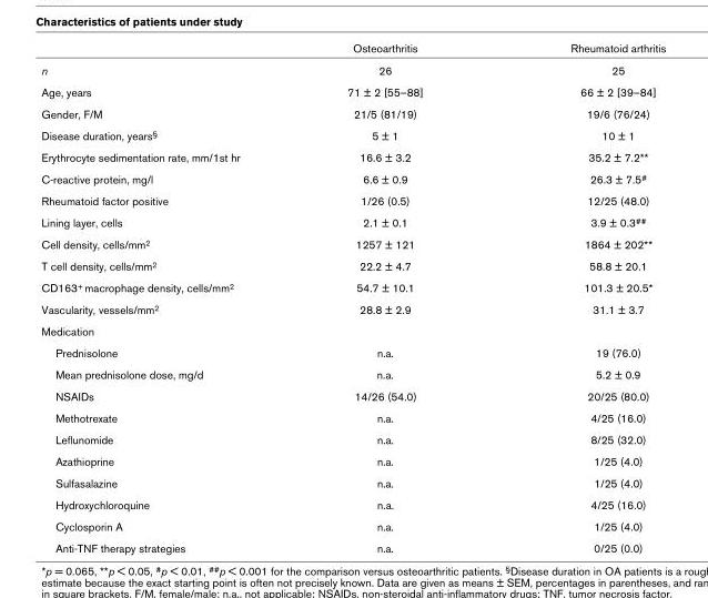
<table><thead><tr><td></td><td>Osteoarthritis</td><td>Rheumatoid arthritis</td></tr></thead><tbody><tr><td>n</td><td>26</td><td>25</td></tr><tr><td>Age, years</td><td>71 ± 2 [55–88]</td><td>66 ± 2 [39–84]</td></tr><tr><td>Gender, F/M</td><td>21/5 (81/19)</td><td>19/6 (76/24)</td></tr><tr><td>Disease duration, years§</td><td>5 ± 1</td><td>10 ± 1</td></tr><tr><td>Erythrocyte sedimentation rate, mm/1st hr</td><td>16.6 ± 3.2</td><td>35.2 ± 7.2**</td></tr><tr><td>C-reactive protein, mg/l</td><td>6.6 ± 0.9</td><td>26.3 ± 7.5#</td></tr><tr><td>Rheumatoid factor positive</td><td>1/26 (0.5)</td><td>12/25 (48.0)</td></tr><tr><td>Lining layer, cells</td><td>2.1 ± 0.1</td><td>3.9 ± 0.3##</td></tr><tr><td>Cell density, cells/mm2</td><td>1257 ± 121</td><td>1864 ± 202**</td></tr><tr><td>T cell density, cells/mm2</td><td>22.2 ± 4.7</td><td>58.8 ± 20.1</td></tr><tr><td>CD163+ macrophage density, cells/mm2</td><td>54.7 ± 10.1</td><td>101.3 ± 20.5*</td></tr><tr><td>Vascularity, vessels/mm2</td><td>28.8 ± 2.9</td><td>31.1 ± 3.7</td></tr><tr><td colspan="3">Medication</td></tr><tr><td>Prednisolone</td><td>n.a.</td><td>19 (76.0)</td></tr><tr><td>Mean prednisolone dose, mg/d</td><td>n.a.</td><td>5.2 ± 0.9</td></tr><tr><td>NSAIDs</td><td>14/26 (54.0)</td><td>20/25 (80.0)</td></tr><tr><td>Methotrexate</td><td>n.a.</td><td>4/25 (16.0)</td></tr><tr><td>Leflunomide</td><td>n.a.</td><td>8/25 (32.0)</td></tr><tr><td>Azathioprine</td><td>n.a.</td><td>1/25 (4.0)</td></tr><tr><td>Sulfasalazine</td><td>n.a.</td><td>1/25 (4.0)</td></tr><tr><td>Hydroxychloroquine</td><td>n.a.</td><td>4/25 (16.0)</td></tr><tr><td>Cyclosporin A</td><td>n.a.</td><td>1/25 (4.0)</td></tr><tr><td>Anti-TNF therapy strategies</td><td>n.a.</td><td>0/25 (0.0)</td></tr></tbody></table>